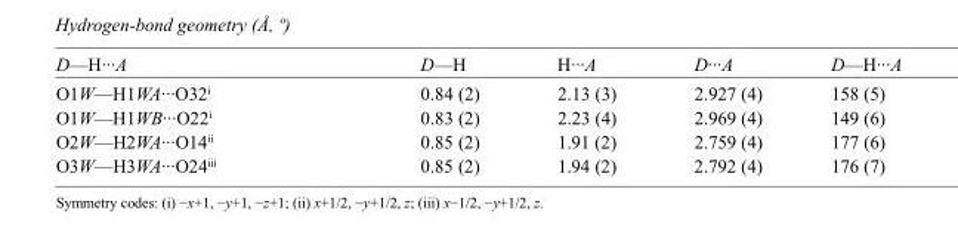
<table><tbody><tr><td>D—H···A</td><td>D—H</td><td>H···A</td><td>D···A</td><td>D—H···A</td></tr><tr><td>O1W—H1WA···O32<sup>i</sup></td><td>0.84 (2)</td><td>2.13 (3)</td><td>2.927 (4)</td><td>158 (5)</td></tr><tr><td>O1W—H1WB···O22<sup>i</sup></td><td>0.83 (2)</td><td>2.23 (4)</td><td>2.969 (4)</td><td>149 (6)</td></tr><tr><td>O2W—H2WA···O14<sup>ii</sup></td><td>0.85 (2)</td><td>1.91 (2)</td><td>2.759 (4)</td><td>177 (6)</td></tr><tr><td>O3W—H3WA···O24<sup>iii</sup></td><td>0.85 (2)</td><td>1.94 (2)</td><td>2.792 (4)</td><td>176 (7)</td></tr></tbody></table>